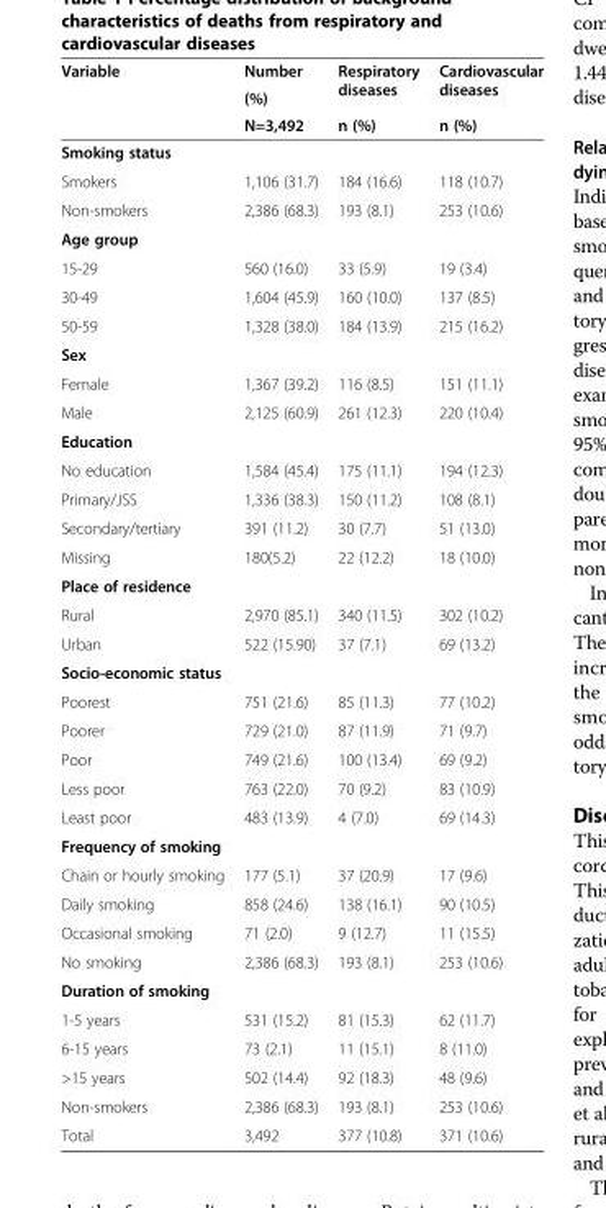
<table><thead><tr><td rowspan="3">Variable</td><td rowspan="3">Number (%) N=3,492</td><td rowspan="3">Respiratory diseases n (%)</td><td rowspan="3">Cardiovascular diseases n (%)</td></tr><tr></tr><tr></tr></thead><tbody><tr><td colspan="4">Smoking status</td></tr><tr><td>Smokers</td><td>1,106 (31.7)</td><td>184 (16.6)</td><td>118 (10.7)</td></tr><tr><td>Non-smokers</td><td>2,386 (68.3)</td><td>193 (8.1)</td><td>253 (10.6)</td></tr><tr><td colspan="4">Age group</td></tr><tr><td>15-29</td><td>560 (16.0)</td><td>33 (5.9)</td><td>19 (3.4)</td></tr><tr><td>30-49</td><td>1,604 (45.9)</td><td>160 (10.0)</td><td>137 (8.5)</td></tr><tr><td>50-59</td><td>1,328 (38.0)</td><td>184 (13.9)</td><td>215 (16.2)</td></tr><tr><td colspan="4">Sex</td></tr><tr><td>Female</td><td>1,367 (39.2)</td><td>116 (8.5)</td><td>151 (11.1)</td></tr><tr><td>Male</td><td>2,125 (60.9)</td><td>261 (12.3)</td><td>220 (10.4)</td></tr><tr><td colspan="4">Education</td></tr><tr><td>No education</td><td>1,584 (45.4)</td><td>175 (11.1)</td><td>194 (12.3)</td></tr><tr><td>Primary/JSS</td><td>1,336 (38.3)</td><td>150 (11.2)</td><td>108 (8.1)</td></tr><tr><td>Secondary/tertiary</td><td>391 (11.2)</td><td>30 (7.7)</td><td>51 (13.0)</td></tr><tr><td>Missing</td><td>180(5.2)</td><td>22 (12.2)</td><td>18 (10.0)</td></tr><tr><td colspan="4">Place of residence</td></tr><tr><td>Rural</td><td>2,970 (85.1)</td><td>340 (11.5)</td><td>302 (10.2)</td></tr><tr><td>Urban</td><td>522 (15.90)</td><td>37 (7.1)</td><td>69 (13.2)</td></tr><tr><td colspan="4">Socio-economic status</td></tr><tr><td>Poorest</td><td>751 (21.6)</td><td>85 (11.3)</td><td>77 (10.2)</td></tr><tr><td>Poorer</td><td>729 (21.0)</td><td>87 (11.9)</td><td>71 (9.7)</td></tr><tr><td>Poor</td><td>749 (21.6)</td><td>100 (13.4)</td><td>69 (9.2)</td></tr><tr><td>Less poor</td><td>763 (22.0)</td><td>70 (9.2)</td><td>83 (10.9)</td></tr><tr><td>Least poor</td><td>483 (13.9)</td><td>4 (7.0)</td><td>69 (14.3)</td></tr><tr><td colspan="4">Frequency of smoking</td></tr><tr><td>Chain or hourly smoking</td><td>177 (5.1)</td><td>37 (20.9)</td><td>17 (9.6)</td></tr><tr><td>Daily smoking</td><td>858 (24.6)</td><td>138 (16.1)</td><td>90 (10.5)</td></tr><tr><td>Occasional smoking</td><td>71 (2.0)</td><td>9 (12.7)</td><td>11 (15.5)</td></tr><tr><td>No smoking</td><td>2,386 (68.3)</td><td>193 (8.1)</td><td>253 (10.6)</td></tr><tr><td colspan="4">Duration of smoking</td></tr><tr><td>1-5 years</td><td>531 (15.2)</td><td>81 (15.3)</td><td>62 (11.7)</td></tr><tr><td>6-15 years</td><td>73 (2.1)</td><td>11 (15.1)</td><td>8 (11.0)</td></tr><tr><td>&gt;15 years</td><td>502 (14.4)</td><td>92 (18.3)</td><td>48 (9.6)</td></tr><tr><td>Non-smokers</td><td>2,386 (68.3)</td><td>193 (8.1)</td><td>253 (10.6)</td></tr><tr><td>Total</td><td>3,492</td><td>377 (10.8)</td><td>371 (10.6)</td></tr></tbody></table>